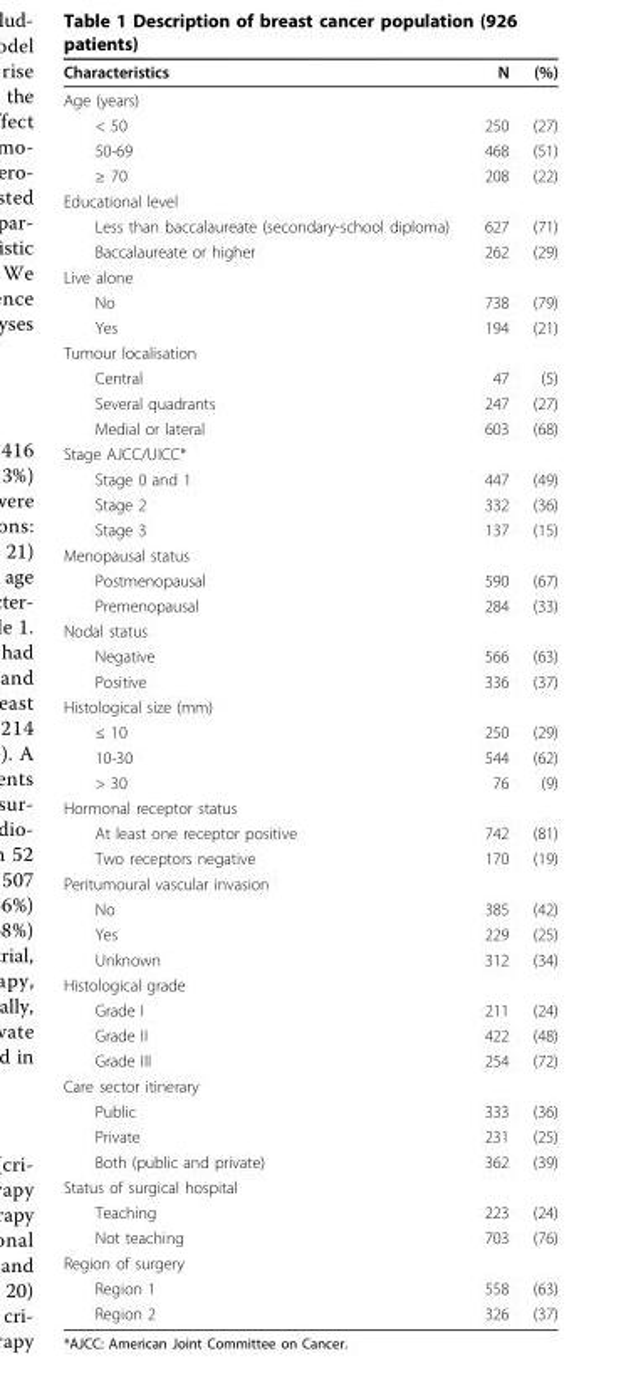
<table><thead><tr><td>Characteristics</td><td>N</td><td>(%)</td></tr></thead><tbody><tr><td colspan="3">Age (years)</td></tr><tr><td>&lt; 50</td><td>250</td><td>(27)</td></tr><tr><td>50-69</td><td>468</td><td>(51)</td></tr><tr><td>≥ 70</td><td>208</td><td>(22)</td></tr><tr><td colspan="3">Educational level</td></tr><tr><td>Less than baccalaureate (secondary-school diploma)</td><td>627</td><td>(71)</td></tr><tr><td>Baccalaureate or higher</td><td>262</td><td>(29)</td></tr><tr><td colspan="3">Live alone</td></tr><tr><td>No</td><td>738</td><td>(79)</td></tr><tr><td>Yes</td><td>194</td><td>(21)</td></tr><tr><td colspan="3">Tumour localisation</td></tr><tr><td>Central</td><td>47</td><td>(5)</td></tr><tr><td>Several quadrants</td><td>247</td><td>(27)</td></tr><tr><td>Medial or lateral</td><td>603</td><td>(68)</td></tr><tr><td colspan="3">Stage AJCC/UICC*</td></tr><tr><td>Stage 0 and 1</td><td>447</td><td>(49)</td></tr><tr><td>Stage 2</td><td>332</td><td>(36)</td></tr><tr><td>Stage 3</td><td>137</td><td>(15)</td></tr><tr><td colspan="3">Menopausal status</td></tr><tr><td>Postmenopausal</td><td>590</td><td>(67)</td></tr><tr><td>Premenopausal</td><td>284</td><td>(33)</td></tr><tr><td colspan="3">Nodal status</td></tr><tr><td>Negative</td><td>566</td><td>(63)</td></tr><tr><td>Positive</td><td>336</td><td>(37)</td></tr><tr><td colspan="3">Histological size (mm)</td></tr><tr><td>≤ 10</td><td>250</td><td>(29)</td></tr><tr><td>10-30</td><td>544</td><td>(62)</td></tr><tr><td>&gt; 30</td><td>76</td><td>(9)</td></tr><tr><td colspan="3">Hormonal receptor status</td></tr><tr><td>At least one receptor positive</td><td>742</td><td>(81)</td></tr><tr><td>Two receptors negative</td><td>170</td><td>(19)</td></tr><tr><td colspan="3">Peritumoural vascular invasion</td></tr><tr><td>No</td><td>385</td><td>(42)</td></tr><tr><td>Yes</td><td>229</td><td>(25)</td></tr><tr><td>Unknown</td><td>312</td><td>(34)</td></tr><tr><td colspan="3">Histological grade</td></tr><tr><td>Grade I</td><td>211</td><td>(24)</td></tr><tr><td>Grade II</td><td>422</td><td>(48)</td></tr><tr><td>Grade III</td><td>254</td><td>(72)</td></tr><tr><td colspan="3">Care sector itinerary</td></tr><tr><td>Public</td><td>333</td><td>(36)</td></tr><tr><td>Private</td><td>231</td><td>(25)</td></tr><tr><td>Both (public and private)</td><td>362</td><td>(39)</td></tr><tr><td colspan="3">Status of surgical hospital</td></tr><tr><td>Teaching</td><td>223</td><td>(24)</td></tr><tr><td>Not teaching</td><td>703</td><td>(76)</td></tr><tr><td colspan="3">Region of surgery</td></tr><tr><td>Region 1</td><td>558</td><td>(63)</td></tr><tr><td>Region 2</td><td>326</td><td>(37)</td></tr></tbody></table>